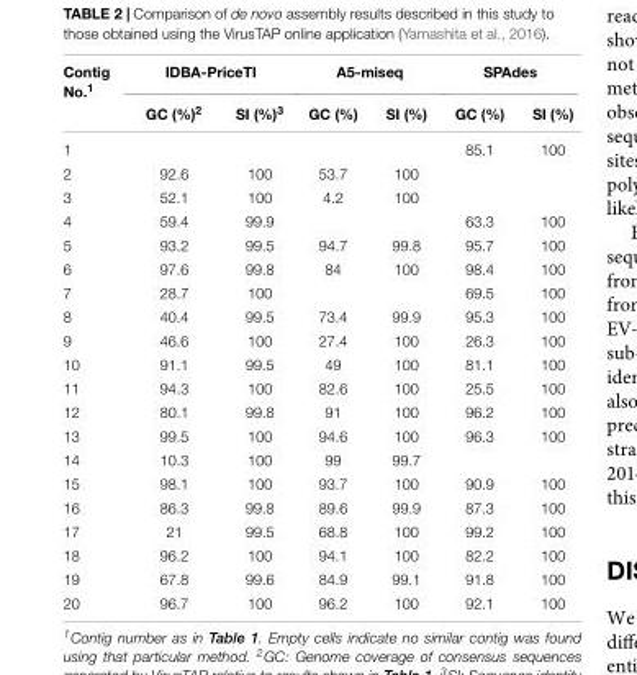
<table><thead><tr><td rowspan="2">Contig No.<sup>1</sup></td><td colspan="2">IDBA-PriceTI</td><td colspan="2">A5-miseq</td><td colspan="2">SPAdes</td></tr><tr><td>GC (%)<sup>2</sup></td><td>SI (%)<sup>3</sup></td><td>GC (%)</td><td>SI (%)</td><td>GC (%)</td><td>SI (%)</td></tr></thead><tbody><tr><td>1</td><td></td><td></td><td></td><td></td><td>85.1</td><td>100</td></tr><tr><td>2</td><td>92.6</td><td>100</td><td>53.7</td><td>100</td><td></td><td></td></tr><tr><td>3</td><td>52.1</td><td>100</td><td>4.2</td><td>100</td><td></td><td></td></tr><tr><td>4</td><td>59.4</td><td>99.9</td><td></td><td></td><td>63.3</td><td>100</td></tr><tr><td>5</td><td>93.2</td><td>99.5</td><td>94.7</td><td>99.8</td><td>95.7</td><td>100</td></tr><tr><td>6</td><td>97.6</td><td>99.8</td><td>84</td><td>100</td><td>98.4</td><td>100</td></tr><tr><td>7</td><td>28.7</td><td>100</td><td></td><td></td><td>69.5</td><td>100</td></tr><tr><td>8</td><td>40.4</td><td>99.5</td><td>73.4</td><td>99.9</td><td>95.3</td><td>100</td></tr><tr><td>9</td><td>46.6</td><td>100</td><td>27.4</td><td>100</td><td>26.3</td><td>100</td></tr><tr><td>10</td><td>91.1</td><td>99.5</td><td>49</td><td>100</td><td>81.1</td><td>100</td></tr><tr><td>11</td><td>94.3</td><td>100</td><td>82.6</td><td>100</td><td>25.5</td><td>100</td></tr><tr><td>12</td><td>80.1</td><td>99.8</td><td>91</td><td>100</td><td>96.2</td><td>100</td></tr><tr><td>13</td><td>99.5</td><td>100</td><td>94.6</td><td>100</td><td>96.3</td><td>100</td></tr><tr><td>14</td><td>10.3</td><td>100</td><td>99</td><td>99.7</td><td></td><td></td></tr><tr><td>15</td><td>98.1</td><td>100</td><td>93.7</td><td>100</td><td>90.9</td><td>100</td></tr><tr><td>16</td><td>86.3</td><td>99.8</td><td>89.6</td><td>99.9</td><td>87.3</td><td>100</td></tr><tr><td>17</td><td>21</td><td>99.5</td><td>68.8</td><td>100</td><td>99.2</td><td>100</td></tr><tr><td>18</td><td>96.2</td><td>100</td><td>94.1</td><td>100</td><td>82.2</td><td>100</td></tr><tr><td>19</td><td>67.8</td><td>99.6</td><td>84.9</td><td>99.1</td><td>91.8</td><td>100</td></tr><tr><td>20</td><td>96.7</td><td>100</td><td>96.2</td><td>100</td><td>92.1</td><td>100</td></tr></tbody></table>